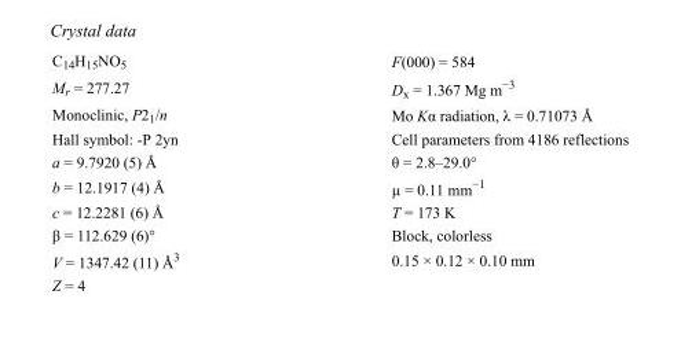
<table><tbody><tr><td>C<sub>14</sub>H<sub>15</sub>NO<sub>5</sub></td><td>F(000) = 584</td></tr><tr><td>M<sub>r</sub> = 277.27</td><td>D<sub>x</sub> = 1.367 Mg m<sup>−3</sup></td></tr><tr><td>Monoclinic, P2<sub>1</sub>/n</td><td>Mo Kα radiation, λ = 0.71073 Å</td></tr><tr><td>Hall symbol: -P 2yn</td><td>Cell parameters from 4186 reflections</td></tr><tr><td>a = 9.7920 (5) Å</td><td>θ = 2.8–29.0°</td></tr><tr><td>b = 12.1917 (4) Å</td><td>µ = 0.11 mm<sup>−1</sup></td></tr><tr><td>c = 12.2281 (6) Å</td><td>T = 173 K</td></tr><tr><td>β = 112.629 (6)°</td><td>Block, colorless</td></tr><tr><td>V = 1347.42 (11) Å<sup>3</sup></td><td>0.15 × 0.12 × 0.10 mm</td></tr><tr><td>Z = 4</td><td></td></tr></tbody></table>